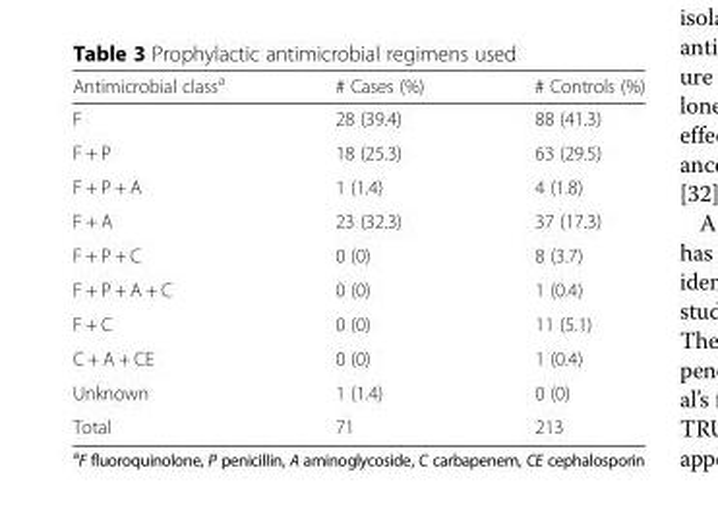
<table><thead><tr><td>Antimicrobial class<sup>a</sup></td><td># Cases (%)</td><td># Controls (%)</td></tr></thead><tbody><tr><td>F</td><td>28 (39.4)</td><td>88 (41.3)</td></tr><tr><td>F + P</td><td>18 (25.3)</td><td>63 (29.5)</td></tr><tr><td>F + P + A</td><td>1 (1.4)</td><td>4 (1.8)</td></tr><tr><td>F + A</td><td>23 (32.3)</td><td>37 (17.3)</td></tr><tr><td>F + P + C</td><td>0 (0)</td><td>8 (3.7)</td></tr><tr><td>F + P + A + C</td><td>0 (0)</td><td>1 (0.4)</td></tr><tr><td>F + C</td><td>0 (0)</td><td>11 (5.1)</td></tr><tr><td>C + A + CE</td><td>0 (0)</td><td>1 (0.4)</td></tr><tr><td>Unknown</td><td>1 (1.4)</td><td>0 (0)</td></tr><tr><td>Total</td><td>71</td><td>213</td></tr></tbody></table>